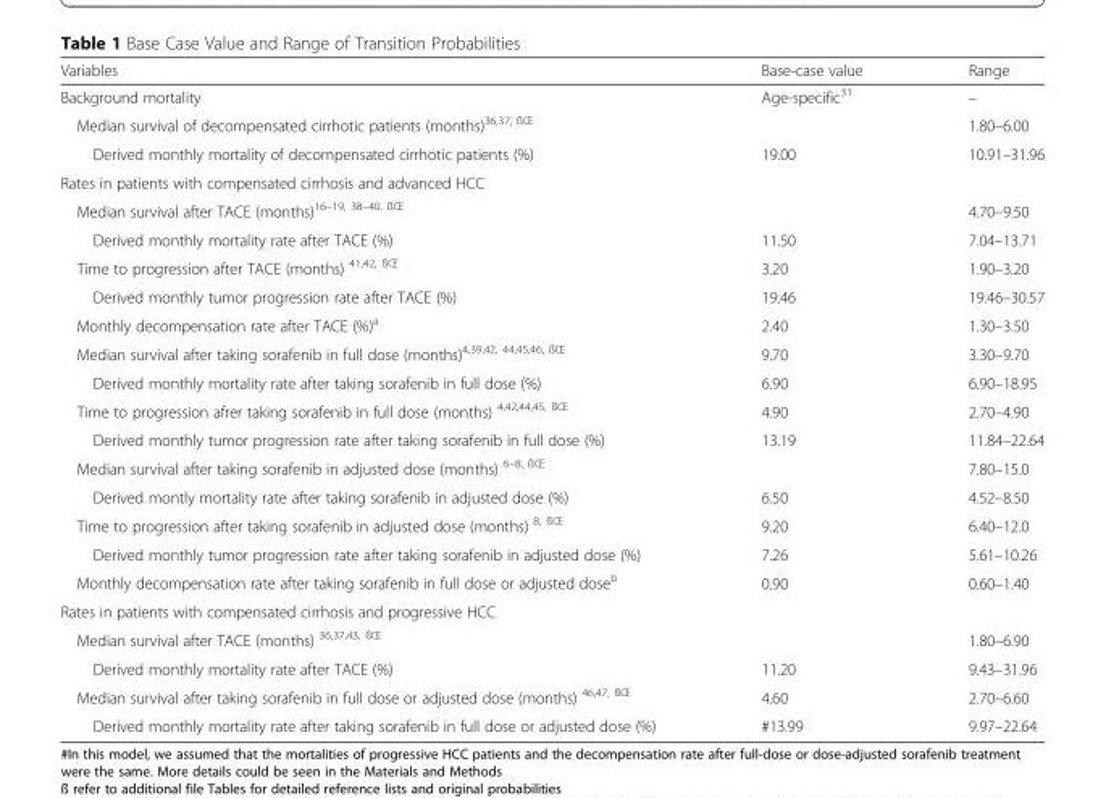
<table><thead><tr><td>Variables</td><td>Base-case value</td><td>Range</td></tr></thead><tbody><tr><td>Background mortality</td><td>Age-specific<sup>31</sup></td><td>–</td></tr><tr><td>Median survival of decompensated cirrhotic patients (months)<sup>36,37, ßŒ</sup></td><td></td><td>1.80–6.00</td></tr><tr><td>Derived monthly mortality of decompensated cirrhotic patients (%)</td><td>19.00</td><td>10.91–31.96</td></tr><tr><td colspan="3">Rates in patients with compensated cirrhosis and advanced HCC</td></tr><tr><td>Median survival after TACE (months)<sup>16–19, 38–40, ßŒ</sup></td><td></td><td>4.70–9.50</td></tr><tr><td>Derived monthly mortality rate after TACE (%)</td><td>11.50</td><td>7.04–13.71</td></tr><tr><td>Time to progression after TACE (months) <sup>41,42, ßŒ</sup></td><td>3.20</td><td>1.90–3.20</td></tr><tr><td>Derived monthly tumor progression rate after TACE (%)</td><td>19.46</td><td>19.46–30.57</td></tr><tr><td>Monthly decompensation rate after TACE (%)<sup>a</sup></td><td>2.40</td><td>1.30–3.50</td></tr><tr><td>Median survival after taking sorafenib in full dose (months)<sup>4,39,42, 44,45,46, ßŒ</sup></td><td>9.70</td><td>3.30–9.70</td></tr><tr><td>Derived monthly mortality rate after taking sorafenib in full dose (%)</td><td>6.90</td><td>6.90–18.95</td></tr><tr><td>Time to progression afrer taking sorafenib in full dose (months) <sup>4,42,44,45, ßŒ</sup></td><td>4.90</td><td>2.70–4.90</td></tr><tr><td>Derived monthly tumor progression rate after taking sorafenib in full dose (%)</td><td>13.19</td><td>11.84–22.64</td></tr><tr><td>Median survival after taking sorafenib in adjusted dose (months) <sup>6–8, ßŒ</sup></td><td></td><td>7.80–15.0</td></tr><tr><td>Derived montly mortality rate after taking sorafenib in adjusted dose (%)</td><td>6.50</td><td>4.52–8.50</td></tr><tr><td>Time to progression after taking sorafenib in adjusted dose (months) <sup>8, ßŒ</sup></td><td>9.20</td><td>6.40–12.0</td></tr><tr><td>Derived monthly tumor progression rate after taking sorafenib in adjusted dose (%)</td><td>7.26</td><td>5.61–10.26</td></tr><tr><td>Monthly decompensation rate after taking sorafenib in full dose or adjusted dose<sup>b</sup></td><td>0.90</td><td>0.60–1.40</td></tr><tr><td colspan="3">Rates in patients with compensated cirrhosis and progressive HCC</td></tr><tr><td>Median survival after TACE (months) <sup>36,37,43, ßŒ</sup></td><td></td><td>1.80–6.90</td></tr><tr><td>Derived monthly mortality rate after TACE (%)</td><td>11.20</td><td>9.43–31.96</td></tr><tr><td>Median survival after taking sorafenib in full dose or adjusted dose (months) <sup>46,47, ßŒ</sup></td><td>4.60</td><td>2.70–6.60</td></tr><tr><td>Derived monthly mortality rate after taking sorafenib in full dose or adjusted dose (%)</td><td>#13.99</td><td>9.97–22.64</td></tr></tbody></table>